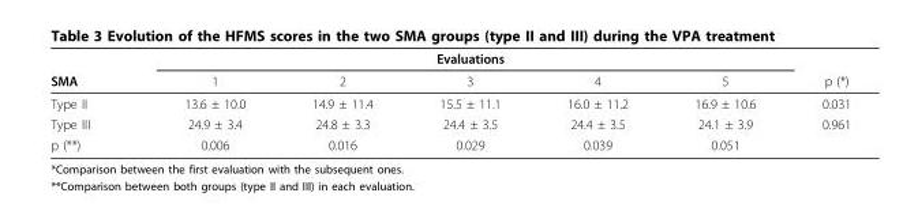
<table><thead><tr><td rowspan="2">SMA</td><td colspan="5">Evaluations</td><td rowspan="2">p (*)</td></tr><tr><td>1</td><td>2</td><td>3</td><td>4</td><td>5</td></tr></thead><tbody><tr><td>Type II</td><td>13.6 ± 10.0</td><td>14.9 ± 11.4</td><td>15.5 ± 11.1</td><td>16.0 ± 11.2</td><td>16.9 ± 10.6</td><td>0.031</td></tr><tr><td>Type III</td><td>24.9 ± 3.4</td><td>24.8 ± 3.3</td><td>24.4 ± 3.5</td><td>24.4 ± 3.5</td><td>24.1 ± 3.9</td><td>0.961</td></tr><tr><td>p (**)</td><td>0.006</td><td>0.016</td><td>0.029</td><td>0.039</td><td>0.051</td><td></td></tr></tbody></table>